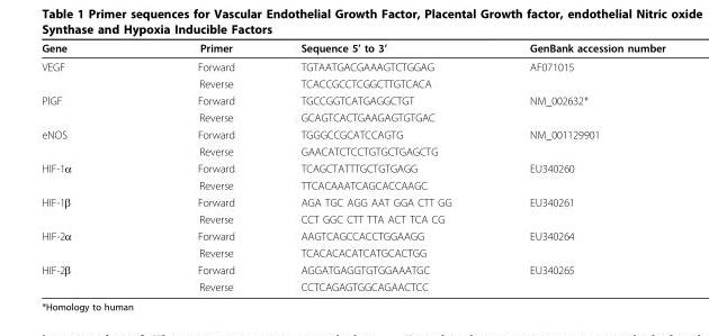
<table><thead><tr><td>Gene</td><td>Primer</td><td>Sequence 5’ to 3’</td><td>GenBank accession number</td></tr></thead><tbody><tr><td rowspan="2">VEGF</td><td>Forward</td><td>TGTAATGACGAAAGTCTGGAG</td><td>AF071015</td></tr><tr><td>Reverse</td><td>TCACCGCCTCGGCTTGTCACA</td><td></td></tr><tr><td rowspan="2">PlGF</td><td>Forward</td><td>TGCCGGTCATGAGGCTGT</td><td>NM_002632*</td></tr><tr><td>Reverse</td><td>GCAGTCACTGAAGAGTGTGAC</td><td></td></tr><tr><td rowspan="2">eNOS</td><td>Forward</td><td>TGGGCCGCATCCAGTG</td><td>NM_001129901</td></tr><tr><td>Reverse</td><td>GAACATCTCCTGTGCTGAGCTG</td><td></td></tr><tr><td rowspan="2">HIF-1α</td><td>Forward</td><td>TCAGCTATTTGCTGTGAGG</td><td>EU340260</td></tr><tr><td>Reverse</td><td>TTCACAAATCAGCACCAAGC</td><td></td></tr><tr><td rowspan="2">HIF-1β</td><td>Forward</td><td>AGA TGC AGG AAT GGA CTT GG</td><td>EU340261</td></tr><tr><td>Reverse</td><td>CCT GGC CTT TTA ACT TCA CG</td><td></td></tr><tr><td rowspan="2">HIF-2α</td><td>Forward</td><td>AAGTCAGCCACCTGGAAGG</td><td>EU340264</td></tr><tr><td>Reverse</td><td>TCACACACATCATGCACTGG</td><td></td></tr><tr><td rowspan="2">HIF-2β</td><td>Forward</td><td>AGGATGAGGTGTGGAAATGC</td><td>EU340265</td></tr><tr><td>Reverse</td><td>CCTCAGAGTGGCAGAACTCC</td><td></td></tr></tbody></table>